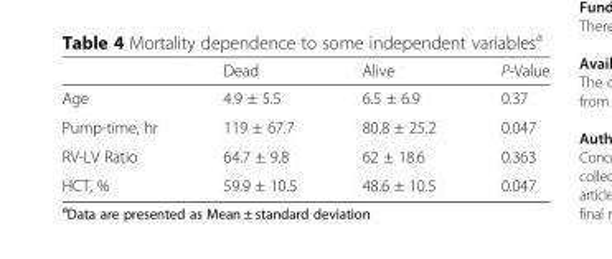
<table><thead><tr><td></td><td>Dead</td><td>Alive</td><td>P-Value</td></tr></thead><tbody><tr><td>Age</td><td>4.9 ± 5.5</td><td>6.5 ± 6.9</td><td>0.37</td></tr><tr><td>Pump-time, hr</td><td>119 ± 67.7</td><td>80.8 ± 25.2</td><td>0.047</td></tr><tr><td>RV-LV Ratio</td><td>64.7 ± 9.8</td><td>62 ± 18.6</td><td>0.363</td></tr><tr><td>HCT, %</td><td>59.9 ± 10.5</td><td>48.6 ± 10.5</td><td>0.047</td></tr></tbody></table>